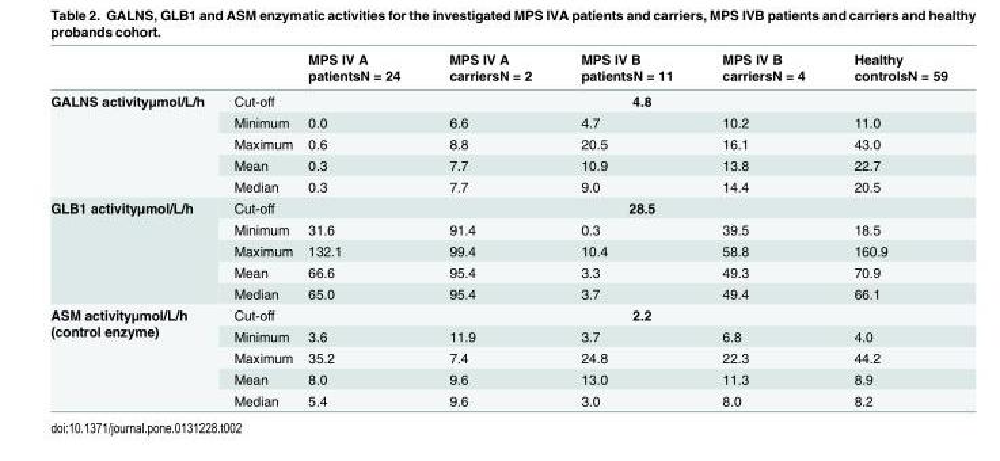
<table><thead><tr><td></td><td></td><td>MPS IV A patientsN = 24</td><td>MPS IV A carriersN = 2</td><td>MPS IV B patientsN = 11</td><td>MPS IV B carriersN = 4</td><td>Healthy controlsN = 59</td></tr></thead><tbody><tr><td rowspan="5">GALNS activityμmol/L/h</td><td>Cut-off</td><td colspan="5">4.8</td></tr><tr><td>Minimum</td><td>0.0</td><td>6.6</td><td>4.7</td><td>10.2</td><td>11.0</td></tr><tr><td>Maximum</td><td>0.6</td><td>8.8</td><td>20.5</td><td>16.1</td><td>43.0</td></tr><tr><td>Mean</td><td>0.3</td><td>7.7</td><td>10.9</td><td>13.8</td><td>22.7</td></tr><tr><td>Median</td><td>0.3</td><td>7.7</td><td>9.0</td><td>14.4</td><td>20.5</td></tr><tr><td rowspan="5">GLB1 activityμmol/L/h</td><td>Cut-off</td><td colspan="5">28.5</td></tr><tr><td>Minimum</td><td>31.6</td><td>91.4</td><td>0.3</td><td>39.5</td><td>18.5</td></tr><tr><td>Maximum</td><td>132.1</td><td>99.4</td><td>10.4</td><td>58.8</td><td>160.9</td></tr><tr><td>Mean</td><td>66.6</td><td>95.4</td><td>3.3</td><td>49.3</td><td>70.9</td></tr><tr><td>Median</td><td>65.0</td><td>95.4</td><td>3.7</td><td>49.4</td><td>66.1</td></tr><tr><td rowspan="5">ASM activityμmol/L/h (control enzyme)</td><td>Cut-off</td><td colspan="5">2.2</td></tr><tr><td>Minimum</td><td>3.6</td><td>11.9</td><td>3.7</td><td>6.8</td><td>4.0</td></tr><tr><td>Maximum</td><td>35.2</td><td>7.4</td><td>24.8</td><td>22.3</td><td>44.2</td></tr><tr><td>Mean</td><td>8.0</td><td>9.6</td><td>13.0</td><td>11.3</td><td>8.9</td></tr><tr><td>Median</td><td>5.4</td><td>9.6</td><td>3.0</td><td>8.0</td><td>8.2</td></tr></tbody></table>